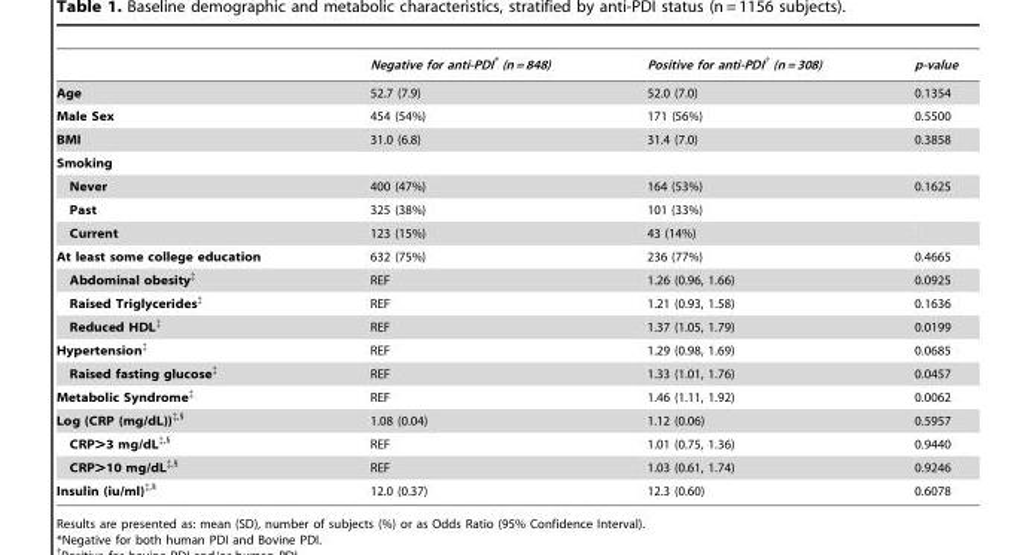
<table><thead><tr><td></td><td>Negative for anti-PDI* (n = 848)</td><td>Positive for anti-PDI† (n = 308)</td><td>p-value</td></tr></thead><tbody><tr><td>Age</td><td>52.7 (7.9)</td><td>52.0 (7.0)</td><td>0.1354</td></tr><tr><td>Male Sex</td><td>454 (54%)</td><td>171 (56%)</td><td>0.5500</td></tr><tr><td>BMI</td><td>31.0 (6.8)</td><td>31.4 (7.0)</td><td>0.3858</td></tr><tr><td colspan="4">Smoking</td></tr><tr><td>Never</td><td>400 (47%)</td><td>164 (53%)</td><td>0.1625</td></tr><tr><td>Past</td><td>325 (38%)</td><td>101 (33%)</td><td></td></tr><tr><td>Current</td><td>123 (15%)</td><td>43 (14%)</td><td></td></tr><tr><td>At least some college education</td><td>632 (75%)</td><td>236 (77%)</td><td>0.4665</td></tr><tr><td>Abdominal obesity‡</td><td>REF</td><td>1.26 (0.96, 1.66)</td><td>0.0925</td></tr><tr><td>Raised Triglycerides‡</td><td>REF</td><td>1.21 (0.93, 1.58)</td><td>0.1636</td></tr><tr><td>Reduced HDL‡</td><td>REF</td><td>1.37 (1.05, 1.79)</td><td>0.0199</td></tr><tr><td>Hypertension‡</td><td>REF</td><td>1.29 (0.98, 1.69)</td><td>0.0685</td></tr><tr><td>Raised fasting glucose‡</td><td>REF</td><td>1.33 (1.01, 1.76)</td><td>0.0457</td></tr><tr><td>Metabolic Syndrome‡</td><td>REF</td><td>1.46 (1.11, 1.92)</td><td>0.0062</td></tr><tr><td>Log (CRP (mg/dL))‡<sup>,</sup>§</td><td>1.08 (0.04)</td><td>1.12 (0.06)</td><td>0.5957</td></tr><tr><td>CRP&gt;3 mg/dL‡<sup>,</sup>§</td><td>REF</td><td>1.01 (0.75, 1.36)</td><td>0.9440</td></tr><tr><td>CRP&gt;10 mg/dL‡<sup>,</sup>§</td><td>REF</td><td>1.03 (0.61, 1.74)</td><td>0.9246</td></tr><tr><td>Insulin (iu/ml)‡<sup>,</sup>§</td><td>12.0 (0.37)</td><td>12.3 (0.60)</td><td>0.6078</td></tr></tbody></table>